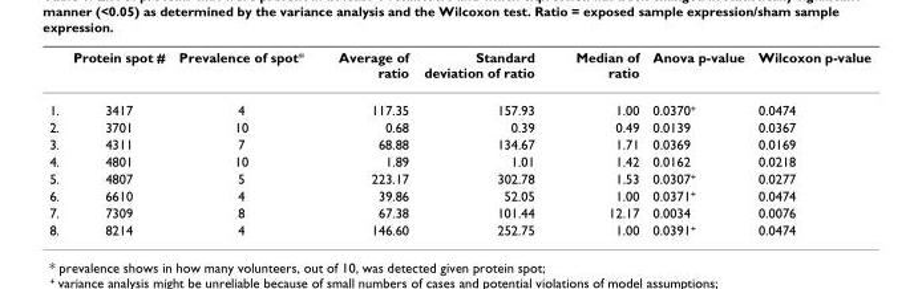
<table><thead><tr><td></td><td>Protein spot #</td><td>Prevalence of spot*</td><td>Average of ratio</td><td>Standard deviation of ratio</td><td>Median of ratio</td><td>Anova p-value</td><td>Wilcoxon p-value</td></tr></thead><tbody><tr><td>1.</td><td>3417</td><td>4</td><td>117.35</td><td>157.93</td><td>1.00</td><td>0.0370<sup>+</sup></td><td>0.0474</td></tr><tr><td>2.</td><td>3701</td><td>10</td><td>0.68</td><td>0.39</td><td>0.49</td><td>0.0139</td><td>0.0367</td></tr><tr><td>3.</td><td>4311</td><td>7</td><td>68.88</td><td>134.67</td><td>1.71</td><td>0.0369</td><td>0.0169</td></tr><tr><td>4.</td><td>4801</td><td>10</td><td>1.89</td><td>1.01</td><td>1.42</td><td>0.0162</td><td>0.0218</td></tr><tr><td>5.</td><td>4807</td><td>5</td><td>223.17</td><td>302.78</td><td>1.53</td><td>0.0307<sup>+</sup></td><td>0.0277</td></tr><tr><td>6.</td><td>6610</td><td>4</td><td>39.86</td><td>52.05</td><td>1.00</td><td>0.0371<sup>+</sup></td><td>0.0474</td></tr><tr><td>7.</td><td>7309</td><td>8</td><td>67.38</td><td>101.44</td><td>12.17</td><td>0.0034</td><td>0.0076</td></tr><tr><td>8.</td><td>8214</td><td>4</td><td>146.60</td><td>252.75</td><td>1.00</td><td>0.0391<sup>+</sup></td><td>0.0474</td></tr></tbody></table>